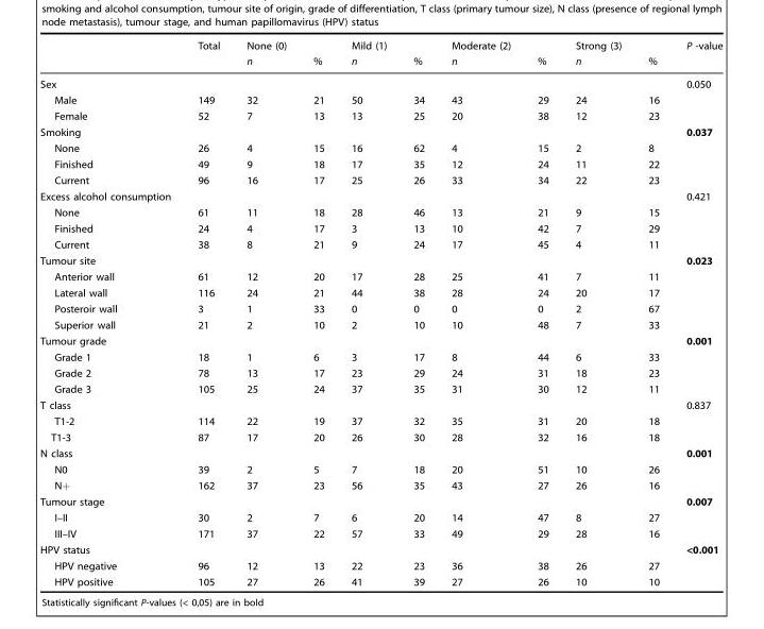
<table><thead><tr><td rowspan="2"></td><td rowspan="2">Total</td><td rowspan="2">None (0) n</td><td rowspan="2">%</td><td rowspan="2">Mild (1) n</td><td rowspan="2">%</td><td rowspan="2">Moderate (2) n</td><td rowspan="2">%</td><td rowspan="2">Strong (3) n</td><td rowspan="2">%</td><td rowspan="2">P -value</td></tr><tr></tr></thead><tbody><tr><td>Sex</td><td></td><td></td><td></td><td></td><td></td><td></td><td></td><td></td><td></td><td>0.050</td></tr><tr><td>Male</td><td>149</td><td>32</td><td>21</td><td>50</td><td>34</td><td>43</td><td>29</td><td>24</td><td>16</td><td></td></tr><tr><td>Female</td><td>52</td><td>7</td><td>13</td><td>13</td><td>25</td><td>20</td><td>38</td><td>12</td><td>23</td><td></td></tr><tr><td>Smoking</td><td></td><td></td><td></td><td></td><td></td><td></td><td></td><td></td><td></td><td>0.037</td></tr><tr><td>None</td><td>26</td><td>4</td><td>15</td><td>16</td><td>62</td><td>4</td><td>15</td><td>2</td><td>8</td><td></td></tr><tr><td>Finished</td><td>49</td><td>9</td><td>18</td><td>17</td><td>35</td><td>12</td><td>24</td><td>11</td><td>22</td><td></td></tr><tr><td>Current</td><td>96</td><td>16</td><td>17</td><td>25</td><td>26</td><td>33</td><td>34</td><td>22</td><td>23</td><td></td></tr><tr><td>Excess alcohol consumption</td><td></td><td></td><td></td><td></td><td></td><td></td><td></td><td></td><td></td><td>0.421</td></tr><tr><td>None</td><td>61</td><td>11</td><td>18</td><td>28</td><td>46</td><td>13</td><td>21</td><td>9</td><td>15</td><td></td></tr><tr><td>Finished</td><td>24</td><td>4</td><td>17</td><td>3</td><td>13</td><td>10</td><td>42</td><td>7</td><td>29</td><td></td></tr><tr><td>Current</td><td>38</td><td>8</td><td>21</td><td>9</td><td>24</td><td>17</td><td>45</td><td>4</td><td>11</td><td></td></tr><tr><td>Tumour site</td><td></td><td></td><td></td><td></td><td></td><td></td><td></td><td></td><td></td><td>0.023</td></tr><tr><td>Anterior wall</td><td>61</td><td>12</td><td>20</td><td>17</td><td>28</td><td>25</td><td>41</td><td>7</td><td>11</td><td></td></tr><tr><td>Lateral wall</td><td>116</td><td>24</td><td>21</td><td>44</td><td>38</td><td>28</td><td>24</td><td>20</td><td>17</td><td></td></tr><tr><td>Posteroir wall</td><td>3</td><td>1</td><td>33</td><td>0</td><td>0</td><td>0</td><td>0</td><td>2</td><td>67</td><td></td></tr><tr><td>Superior wall</td><td>21</td><td>2</td><td>10</td><td>2</td><td>10</td><td>10</td><td>48</td><td>7</td><td>33</td><td></td></tr><tr><td>Tumour grade</td><td></td><td></td><td></td><td></td><td></td><td></td><td></td><td></td><td></td><td>0.001</td></tr><tr><td>Grade 1</td><td>18</td><td>1</td><td>6</td><td>3</td><td>17</td><td>8</td><td>44</td><td>6</td><td>33</td><td></td></tr><tr><td>Grade 2</td><td>78</td><td>13</td><td>17</td><td>23</td><td>29</td><td>24</td><td>31</td><td>18</td><td>23</td><td></td></tr><tr><td>Grade 3</td><td>105</td><td>25</td><td>24</td><td>37</td><td>35</td><td>31</td><td>30</td><td>12</td><td>11</td><td></td></tr><tr><td>T class</td><td></td><td></td><td></td><td></td><td></td><td></td><td></td><td></td><td></td><td>0.837</td></tr><tr><td>T1-2</td><td>114</td><td>22</td><td>19</td><td>37</td><td>32</td><td>35</td><td>31</td><td>20</td><td>18</td><td></td></tr><tr><td>T1-3</td><td>87</td><td>17</td><td>20</td><td>26</td><td>30</td><td>28</td><td>32</td><td>16</td><td>18</td><td></td></tr><tr><td>N class</td><td></td><td></td><td></td><td></td><td></td><td></td><td></td><td></td><td></td><td>0.001</td></tr><tr><td>N0</td><td>39</td><td>2</td><td>5</td><td>7</td><td>18</td><td>20</td><td>51</td><td>10</td><td>26</td><td></td></tr><tr><td>N+</td><td>162</td><td>37</td><td>23</td><td>56</td><td>35</td><td>43</td><td>27</td><td>26</td><td>16</td><td></td></tr><tr><td>Tumour stage</td><td></td><td></td><td></td><td></td><td></td><td></td><td></td><td></td><td></td><td>0.007</td></tr><tr><td>I–II</td><td>30</td><td>2</td><td>7</td><td>6</td><td>20</td><td>14</td><td>47</td><td>8</td><td>27</td><td></td></tr><tr><td>III–IV</td><td>171</td><td>37</td><td>22</td><td>57</td><td>33</td><td>49</td><td>29</td><td>28</td><td>16</td><td></td></tr><tr><td>HPV status</td><td></td><td></td><td></td><td></td><td></td><td></td><td></td><td></td><td></td><td>&lt;0.001</td></tr><tr><td>HPV negative</td><td>96</td><td>12</td><td>13</td><td>22</td><td>23</td><td>36</td><td>38</td><td>26</td><td>27</td><td></td></tr><tr><td>HPV positive</td><td>105</td><td>27</td><td>26</td><td>41</td><td>39</td><td>27</td><td>26</td><td>10</td><td>10</td><td></td></tr></tbody></table>